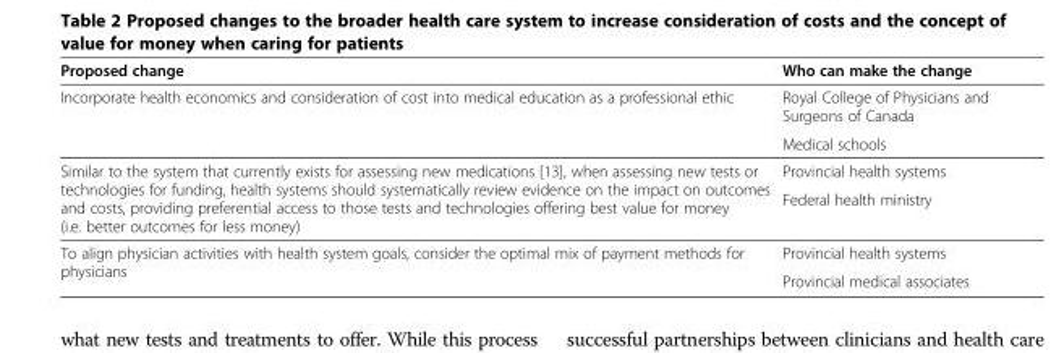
<table><thead><tr><td>Proposed change</td><td>Who can make the change</td></tr></thead><tbody><tr><td rowspan="2">Incorporate health economics and consideration of cost into medical education as a professional ethic</td><td>Royal College of Physicians and Surgeons of Canada</td></tr><tr><td>Medical schools</td></tr><tr><td rowspan="2">Similar to the system that currently exists for assessing new medications [13], when assessing new tests or technologies for funding, health systems should systematically review evidence on the impact on outcomes and costs, providing preferential access to those tests and technologies offering best value for money (i.e. better outcomes for less money)</td><td>Provincial health systems</td></tr><tr><td>Federal health ministry</td></tr><tr><td rowspan="2">To align physician activities with health system goals, consider the optimal mix of payment methods for physicians</td><td>Provincial health systems</td></tr><tr><td>Provincial medical associates</td></tr></tbody></table>